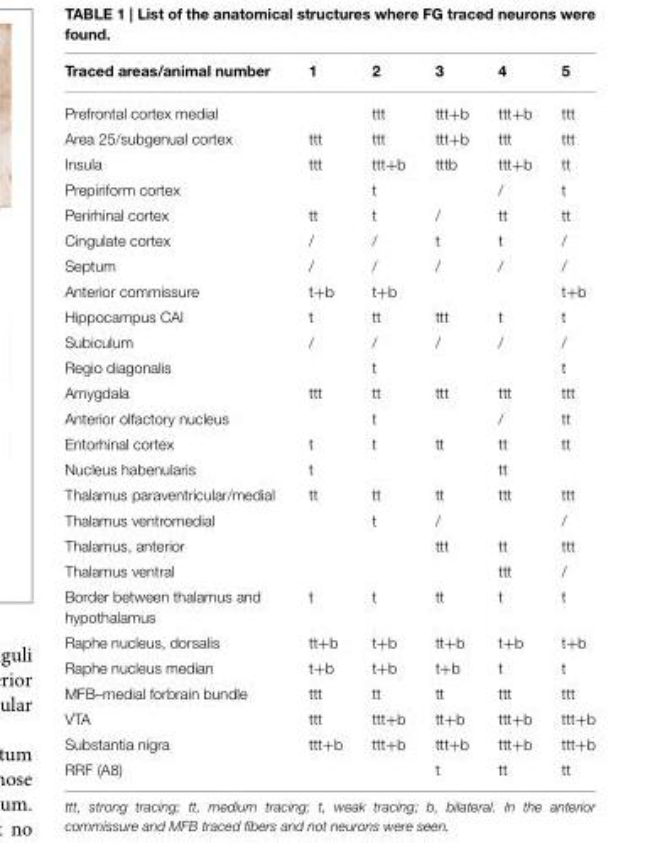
<table><thead><tr><td>Traced areas/animal number</td><td>1</td><td>2</td><td>3</td><td>4</td><td>5</td></tr></thead><tbody><tr><td>Prefrontal cortex medial</td><td></td><td>ttt</td><td>ttt+b</td><td>ttt+b</td><td>ttt</td></tr><tr><td>Area 25/subgenual cortex</td><td>ttt</td><td>ttt</td><td>ttt+b</td><td>ttt</td><td>ttt</td></tr><tr><td>Insula</td><td>ttt</td><td>ttt+b</td><td>tttb</td><td>ttt+b</td><td>tt</td></tr><tr><td>Prepiriform cortex</td><td></td><td>t</td><td></td><td>/</td><td>t</td></tr><tr><td>Perirhinal cortex</td><td>tt</td><td>t</td><td>/</td><td>tt</td><td>tt</td></tr><tr><td>Cingulate cortex</td><td>/</td><td>/</td><td>t</td><td>t</td><td>/</td></tr><tr><td>Septum</td><td>/</td><td>/</td><td>/</td><td>/</td><td>/</td></tr><tr><td>Anterior commissure</td><td>t+b</td><td>t+b</td><td></td><td></td><td>t+b</td></tr><tr><td>Hippocampus CAl</td><td>t</td><td>tt</td><td>ttt</td><td>t</td><td>t</td></tr><tr><td>Subiculum</td><td>/</td><td>/</td><td>/</td><td>/</td><td>/</td></tr><tr><td>Regio diagonalis</td><td></td><td>t</td><td></td><td></td><td>t</td></tr><tr><td>Amygdala</td><td>ttt</td><td>tt</td><td>ttt</td><td>ttt</td><td>ttt</td></tr><tr><td>Anterior olfactory nucleus</td><td></td><td>t</td><td></td><td>/</td><td>tt</td></tr><tr><td>Entorhinal cortex</td><td>t</td><td>t</td><td>tt</td><td>tt</td><td>tt</td></tr><tr><td>Nucleus habenularis</td><td>t</td><td></td><td></td><td>tt</td><td></td></tr><tr><td>Thalamus paraventricular/medial</td><td>tt</td><td>tt</td><td>tt</td><td>ttt</td><td>ttt</td></tr><tr><td>Thalamus ventromedial</td><td></td><td>t</td><td>/</td><td></td><td>/</td></tr><tr><td>Thalamus, anterior</td><td></td><td></td><td>ttt</td><td>tt</td><td>ttt</td></tr><tr><td>Thalamus ventral</td><td></td><td></td><td></td><td>ttt</td><td>/</td></tr><tr><td>Border between thalamus and hypothalamus</td><td>t</td><td>t</td><td>tt</td><td>t</td><td>t</td></tr><tr><td>Raphe nucleus, dorsalis</td><td>tt+b</td><td>t+b</td><td>tt+b</td><td>t+b</td><td>t+b</td></tr><tr><td>Raphe nucleus median</td><td>t+b</td><td>t+b</td><td>t+b</td><td>t</td><td>t</td></tr><tr><td>MFB–medial forbrain bundle</td><td>ttt</td><td>tt</td><td>tt</td><td>ttt</td><td>ttt</td></tr><tr><td>VTA</td><td>ttt</td><td>ttt+b</td><td>tt+b</td><td>ttt+b</td><td>ttt+b</td></tr><tr><td>Substantia nigra</td><td>ttt+b</td><td>ttt+b</td><td>ttt+b</td><td>ttt+b</td><td>ttt+b</td></tr><tr><td>RRF (A8)</td><td></td><td></td><td>t</td><td>tt</td><td>tt</td></tr></tbody></table>